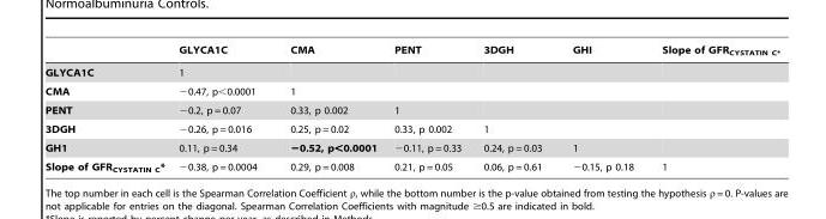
<table><thead><tr><td></td><td>GLYCA1C</td><td>CMA</td><td>PENT</td><td>3DGH</td><td>GHI</td><td>Slope of GFR<sub>CYSTATIN C</sub>*</td></tr></thead><tbody><tr><td>GLYCA1C</td><td>1</td><td></td><td></td><td></td><td></td><td></td></tr><tr><td>CMA</td><td>−0.47, p&lt;0.0001</td><td>1</td><td></td><td></td><td></td><td></td></tr><tr><td>PENT</td><td>−0.2, p = 0.07</td><td>0.33, p 0.002</td><td>1</td><td></td><td></td><td></td></tr><tr><td>3DGH</td><td>−0.26, p = 0.016</td><td>0.25, p = 0.02</td><td>0.33, p 0.002</td><td>1</td><td></td><td></td></tr><tr><td>GH1</td><td>0.11, p = 0.34</td><td>−0.52, p&lt;0.0001</td><td>−0.11, p = 0.33</td><td>0.24, p = 0.03</td><td>1</td><td></td></tr><tr><td>Slope of GFR<sub>CYSTATIN C</sub>*</td><td>−0.38, p = 0.0004</td><td>0.29, p = 0.008</td><td>0.21, p = 0.05</td><td>0.06, p = 0.61</td><td>−0.15, p 0.18</td><td>1</td></tr></tbody></table>